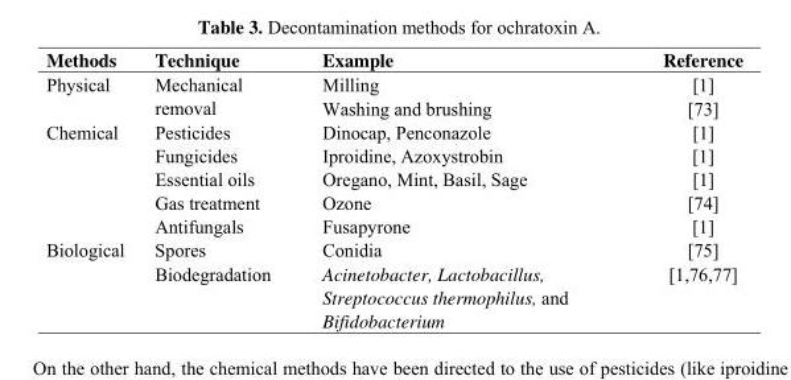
<table><thead><tr><td>Methods</td><td>Technique</td><td>Example</td><td>Reference</td></tr></thead><tbody><tr><td rowspan="2">Physical</td><td rowspan="2">Mechanical removal</td><td>Milling</td><td>[1]</td></tr><tr><td>Washing and brushing</td><td>[73]</td></tr><tr><td rowspan="5">Chemical</td><td>Pesticides</td><td>Dinocap, Penconazole</td><td>[1]</td></tr><tr><td>Fungicides</td><td>Iproidine, Azoxystrobin</td><td>[1]</td></tr><tr><td>Essential oils</td><td>Oregano, Mint, Basil, Sage</td><td>[1]</td></tr><tr><td>Gas treatment</td><td>Ozone</td><td>[74]</td></tr><tr><td>Antifungals</td><td>Fusapyrone</td><td>[1]</td></tr><tr><td rowspan="2">Biological</td><td>Spores</td><td>Conidia</td><td>[75]</td></tr><tr><td>Biodegradation</td><td>Acinetobacter, Lactobacillus, Streptococcus thermophilus, and Bifidobacterium</td><td>[1,76,77]</td></tr></tbody></table>